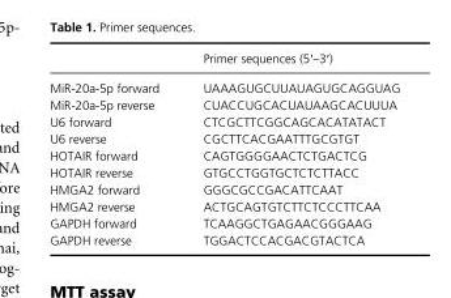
<table><thead><tr><td></td><td>Primer sequences (5′–3′)</td></tr></thead><tbody><tr><td>MiR- 20a- 5p forward</td><td>UAAAGUGCUUAUAGUGCAGGUAG</td></tr><tr><td>MiR- 20a- 5p reverse</td><td>CUACCUGCACUAUAAGCACUUUA</td></tr><tr><td>U6 forward</td><td>CTCGCTTCGGCAGCACATATACT</td></tr><tr><td>U6 reverse</td><td>CGCTTCACGAATTTGCGTGT</td></tr><tr><td>HOTAIR forward</td><td>CAGTGGGGAACTCTGACTCG</td></tr><tr><td>HOTAIR reverse</td><td>GTGCCTGGTGCTCTCTTACC</td></tr><tr><td>HMGA2 forward</td><td>GGGCGCCGACATTCAAT</td></tr><tr><td>HMGA2 reverse</td><td>ACTGCAGTGTCTTCTCCCTTCAA</td></tr><tr><td>GAPDH forward</td><td>TCAAGGCTGAGAACGGGAAG</td></tr><tr><td>GAPDH reverse</td><td>TGGACTCCACGACGTACTCA</td></tr></tbody></table>